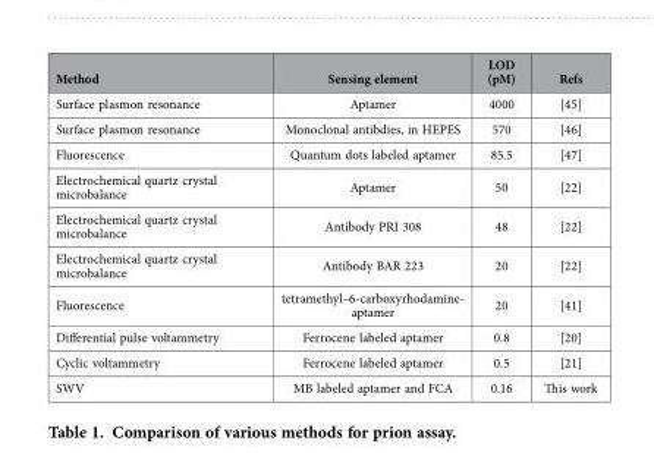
<table><thead><tr><td>Method</td><td>Sensing element</td><td>LOD (pM)</td><td>Refs</td></tr></thead><tbody><tr><td>Surface plasmon resonance</td><td>Aptamer</td><td>4000</td><td>[45]</td></tr><tr><td>Surface plasmon resonance</td><td>Monoclonal antibdies, in HEPES</td><td>570</td><td>[46]</td></tr><tr><td>Fluorescence</td><td>Quantum dots labeled aptamer</td><td>85.5</td><td>[47]</td></tr><tr><td>Electrochemical quartz crystal microbalance</td><td>Aptamer</td><td>50</td><td>[22]</td></tr><tr><td>Electrochemical quartz crystal microbalance</td><td>Antibody PRI 308</td><td>48</td><td>[22]</td></tr><tr><td>Electrochemical quartz crystal microbalance</td><td>Antibody BAR 223</td><td>20</td><td>[22]</td></tr><tr><td>Fluorescence</td><td>tetramethyl–6-carboxyrhodamine- aptamer</td><td>20</td><td>[41]</td></tr><tr><td>Differential pulse voltammetry</td><td>Ferrocene labeled aptamer</td><td>0.8</td><td>[20]</td></tr><tr><td>Cyclic voltammetry</td><td>Ferrocene labeled aptamer</td><td>0.5</td><td>[21]</td></tr><tr><td>SWV</td><td>MB labeled aptamer and FCA</td><td>0.16</td><td>This work</td></tr></tbody></table>